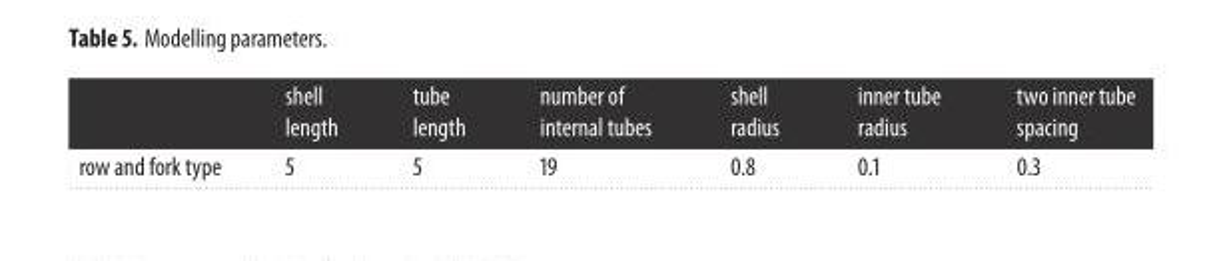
<table><thead><tr><td></td><td>shell length</td><td>tube length</td><td>number of internal tubes</td><td>shell radius</td><td>inner tube radius</td><td>two inner tube spacing</td></tr></thead><tbody><tr><td>row and fork type</td><td>5</td><td>5</td><td>19</td><td>0.8</td><td>0.1</td><td>0.3</td></tr></tbody></table>